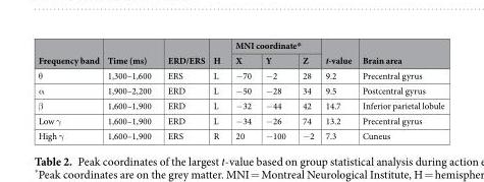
<table><thead><tr><td rowspan="2">Frequency band</td><td rowspan="2">Time (ms)</td><td rowspan="2">ERD/ERS</td><td rowspan="2">H</td><td colspan="3">MNI coordinate*</td><td rowspan="2">t-value</td><td rowspan="2">Brain area</td></tr><tr><td>X</td><td>Y</td><td>Z</td></tr></thead><tbody><tr><td>θ</td><td>1,300–1,600</td><td>ERS</td><td>L</td><td>−70</td><td>−2</td><td>28</td><td>9.2</td><td>Precentral gyrus</td></tr><tr><td>α</td><td>1,900–2,200</td><td>ERD</td><td>L</td><td>−50</td><td>−28</td><td>34</td><td>9.5</td><td>Postcentral gyrus</td></tr><tr><td>β</td><td>1,600–1,900</td><td>ERD</td><td>L</td><td>−32</td><td>−44</td><td>42</td><td>14.7</td><td>Inferior parietal lobule</td></tr><tr><td>Low γ</td><td>1,600–1,900</td><td>ERD</td><td>L</td><td>−34</td><td>−26</td><td>74</td><td>13.2</td><td>Precentral gyrus</td></tr><tr><td>High γ</td><td>1,600–1,900</td><td>ERS</td><td>R</td><td>20</td><td>−100</td><td>−2</td><td>7.3</td><td>Cuneus</td></tr></tbody></table>